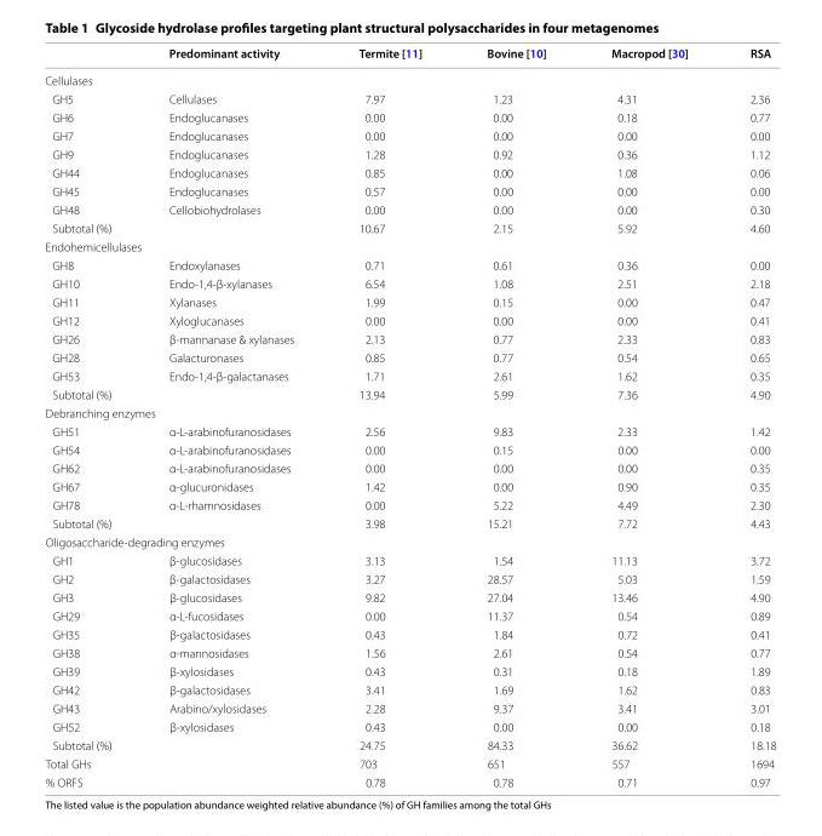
<table><thead><tr><td></td><td>Predominant activity</td><td>Termite [11]</td><td>Bovine [10]</td><td>Macropod [30]</td><td>RSA</td></tr></thead><tbody><tr><td colspan="6">Cellulases</td></tr><tr><td>GH5</td><td>Cellulases</td><td>7.97</td><td>1.23</td><td>4.31</td><td>2.36</td></tr><tr><td>GH6</td><td>Endoglucanases</td><td>0.00</td><td>0.00</td><td>0.18</td><td>0.77</td></tr><tr><td>GH7</td><td>Endoglucanases</td><td>0.00</td><td>0.00</td><td>0.00</td><td>0.00</td></tr><tr><td>GH9</td><td>Endoglucanases</td><td>1.28</td><td>0.92</td><td>0.36</td><td>1.12</td></tr><tr><td>GH44</td><td>Endoglucanases</td><td>0.85</td><td>0.00</td><td>1.08</td><td>0.06</td></tr><tr><td>GH45</td><td>Endoglucanases</td><td>0.57</td><td>0.00</td><td>0.00</td><td>0.00</td></tr><tr><td>GH48</td><td>Cellobiohydrolases</td><td>0.00</td><td>0.00</td><td>0.00</td><td>0.30</td></tr><tr><td>Subtotal (%)</td><td></td><td>10.67</td><td>2.15</td><td>5.92</td><td>4.60</td></tr><tr><td colspan="6">Endohemicellulases</td></tr><tr><td>GH8</td><td>Endoxylanases</td><td>0.71</td><td>0.61</td><td>0.36</td><td>0.00</td></tr><tr><td>GH10</td><td>Endo-1,4-β-xylanases</td><td>6.54</td><td>1.08</td><td>2.51</td><td>2.18</td></tr><tr><td>GH11</td><td>Xylanases</td><td>1.99</td><td>0.15</td><td>0.00</td><td>0.47</td></tr><tr><td>GH12</td><td>Xyloglucanases</td><td>0.00</td><td>0.00</td><td>0.00</td><td>0.41</td></tr><tr><td>GH26</td><td>β-mannanase &amp; xylanases</td><td>2.13</td><td>0.77</td><td>2.33</td><td>0.83</td></tr><tr><td>GH28</td><td>Galacturonases</td><td>0.85</td><td>0.77</td><td>0.54</td><td>0.65</td></tr><tr><td>GH53</td><td>Endo-1,4-β-galactanases</td><td>1.71</td><td>2.61</td><td>1.62</td><td>0.35</td></tr><tr><td>Subtotal (%)</td><td></td><td>13.94</td><td>5.99</td><td>7.36</td><td>4.90</td></tr><tr><td colspan="6">Debranching enzymes</td></tr><tr><td>GH51</td><td>α-L-arabinofuranosidases</td><td>2.56</td><td>9.83</td><td>2.33</td><td>1.42</td></tr><tr><td>GH54</td><td>α-L-arabinofuranosidases</td><td>0.00</td><td>0.15</td><td>0.00</td><td>0.00</td></tr><tr><td>GH62</td><td>α-L-arabinofuranosidases</td><td>0.00</td><td>0.00</td><td>0.00</td><td>0.35</td></tr><tr><td>GH67</td><td>α-glucuronidases</td><td>1.42</td><td>0.00</td><td>0.90</td><td>0.35</td></tr><tr><td>GH78</td><td>α-L-rhamnosidases</td><td>0.00</td><td>5.22</td><td>4.49</td><td>2.30</td></tr><tr><td>Subtotal (%)</td><td></td><td>3.98</td><td>15.21</td><td>7.72</td><td>4.43</td></tr><tr><td colspan="6">Oligosaccharide-degrading enzymes</td></tr><tr><td>GH1</td><td>β-glucosidases</td><td>3.13</td><td>1.54</td><td>11.13</td><td>3.72</td></tr><tr><td>GH2</td><td>β-galactosidases</td><td>3.27</td><td>28.57</td><td>5.03</td><td>1.59</td></tr><tr><td>GH3</td><td>β-glucosidases</td><td>9.82</td><td>27.04</td><td>13.46</td><td>4.90</td></tr><tr><td>GH29</td><td>α-L-fucosidases</td><td>0.00</td><td>11.37</td><td>0.54</td><td>0.89</td></tr><tr><td>GH35</td><td>β-galactosidases</td><td>0.43</td><td>1.84</td><td>0.72</td><td>0.41</td></tr><tr><td>GH38</td><td>α-mannosidases</td><td>1.56</td><td>2.61</td><td>0.54</td><td>0.77</td></tr><tr><td>GH39</td><td>β-xylosidases</td><td>0.43</td><td>0.31</td><td>0.18</td><td>1.89</td></tr><tr><td>GH42</td><td>β-galactosidases</td><td>3.41</td><td>1.69</td><td>1.62</td><td>0.83</td></tr><tr><td>GH43</td><td>Arabino/xylosidases</td><td>2.28</td><td>9.37</td><td>3.41</td><td>3.01</td></tr><tr><td>GH52</td><td>β-xylosidases</td><td>0.43</td><td>0.00</td><td>0.00</td><td>0.18</td></tr><tr><td>Subtotal (%)</td><td></td><td>24.75</td><td>84.33</td><td>36.62</td><td>18.18</td></tr><tr><td>Total GHs</td><td></td><td>703</td><td>651</td><td>557</td><td>1694</td></tr><tr><td>% ORFS</td><td></td><td>0.78</td><td>0.78</td><td>0.71</td><td>0.97</td></tr></tbody></table>